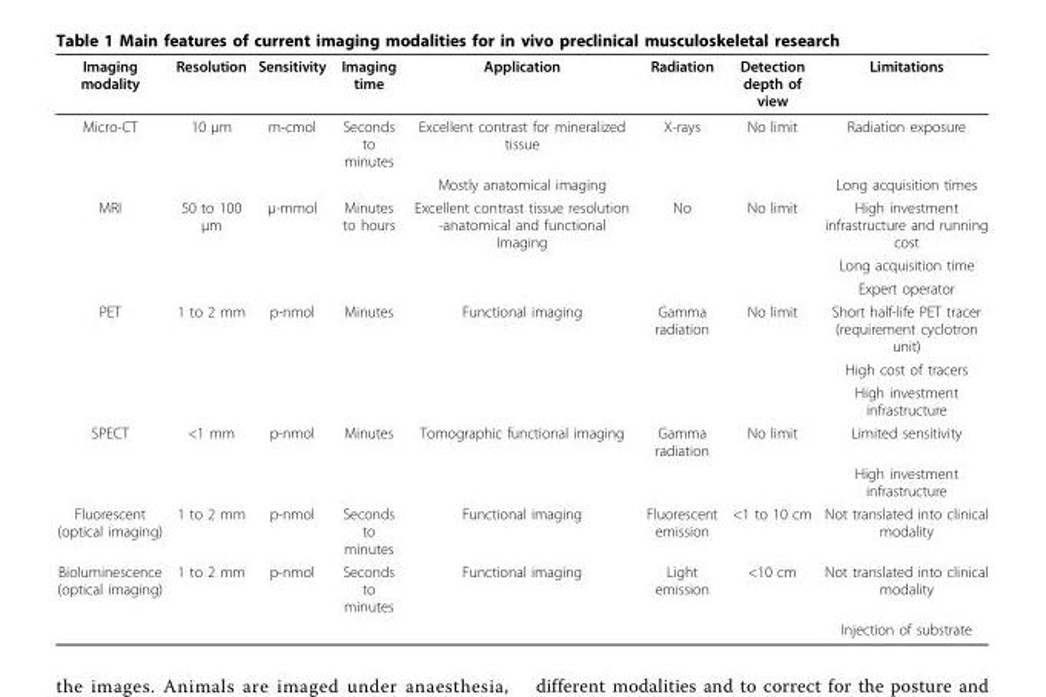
<table><thead><tr><td>Imaging modality</td><td>Resolution</td><td>Sensitivity</td><td>Imaging time</td><td>Application</td><td>Radiation</td><td>Detection depth of view</td><td>Limitations</td></tr></thead><tbody><tr><td rowspan="2">Micro-CT</td><td>10 μm</td><td>m-cmol</td><td>Seconds to minutes</td><td>Excellent contrast for mineralized tissue</td><td>X-rays</td><td>No limit</td><td>Radiation exposure</td></tr><tr><td></td><td></td><td></td><td>Mostly anatomical imaging</td><td></td><td></td><td>Long acquisition times</td></tr><tr><td rowspan="3">MRI</td><td>50 to 100 μm</td><td>μ-mmol</td><td>Minutes to hours</td><td>Excellent contrast tissue resolution -anatomical and functional Imaging</td><td>No</td><td>No limit</td><td>High investment infrastructure and running cost</td></tr><tr><td></td><td></td><td></td><td></td><td></td><td></td><td>Long acquisition time</td></tr><tr><td></td><td></td><td></td><td></td><td></td><td></td><td>Expert operator</td></tr><tr><td rowspan="3">PET</td><td>1 to 2 mm</td><td>p-nmol</td><td>Minutes</td><td>Functional imaging</td><td>Gamma radiation</td><td>No limit</td><td>Short half-life PET tracer (requirement cyclotron unit)</td></tr><tr><td></td><td></td><td></td><td></td><td></td><td></td><td>High cost of tracers</td></tr><tr><td></td><td></td><td></td><td></td><td></td><td></td><td>High investment infrastructure</td></tr><tr><td rowspan="2">SPECT</td><td>&lt;1 mm</td><td>p-nmol</td><td>Minutes</td><td>Tomographic functional imaging</td><td>Gamma radiation</td><td>No limit</td><td>Limited sensitivity</td></tr><tr><td></td><td></td><td></td><td></td><td></td><td></td><td>High investment infrastructure</td></tr><tr><td>Fluorescent (optical imaging)</td><td>1 to 2 mm</td><td>p-nmol</td><td>Seconds to minutes</td><td>Functional imaging</td><td>Fluorescent emission</td><td>&lt;1 to 10 cm</td><td>Not translated into clinical modality</td></tr><tr><td rowspan="2">Bioluminescence (optical imaging)</td><td>1 to 2 mm</td><td>p-nmol</td><td>Seconds to minutes</td><td>Functional imaging</td><td>Light emission</td><td>&lt;10 cm</td><td>Not translated into clinical modality</td></tr><tr><td></td><td></td><td></td><td></td><td></td><td></td><td>Injection of substrate</td></tr></tbody></table>